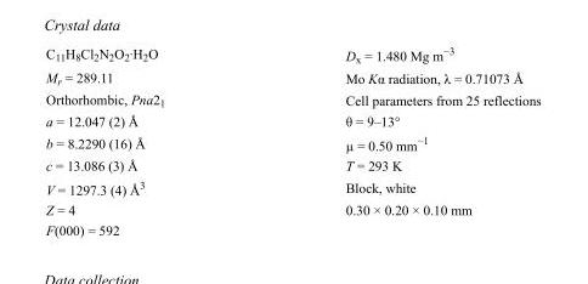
<table><tbody><tr><td>C<sub>11</sub>H<sub>8</sub>Cl<sub>2</sub>N<sub>2</sub>O<sub>2</sub>·H<sub>2</sub>O</td><td>D<sub>x</sub> = 1.480 Mg m<sup>−3</sup></td></tr><tr><td>M<sub>r</sub> = 289.11</td><td>Mo Kα radiation, λ = 0.71073 Å</td></tr><tr><td>Orthorhombic, Pna2<sub>1</sub></td><td>Cell parameters from 25 reflections</td></tr><tr><td>a = 12.047 (2) Å</td><td>θ = 9–13°</td></tr><tr><td>b = 8.2290 (16) Å</td><td>µ = 0.50 mm<sup>−1</sup></td></tr><tr><td>c = 13.086 (3) Å</td><td>T = 293 K</td></tr><tr><td>V = 1297.3 (4) Å<sup>3</sup></td><td>Block, white</td></tr><tr><td>Z = 4</td><td>0.30 × 0.20 × 0.10 mm</td></tr><tr><td>F(000) = 592</td><td></td></tr></tbody></table>